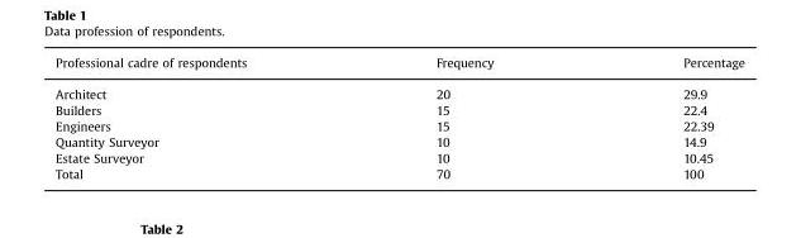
<table><thead><tr><td>Professional cadre of respondents</td><td>Frequency</td><td>Percentage</td></tr></thead><tbody><tr><td>Architect</td><td>20</td><td>29.9</td></tr><tr><td>Builders</td><td>15</td><td>22.4</td></tr><tr><td>Engineers</td><td>15</td><td>22.39</td></tr><tr><td>Quantity Surveyor</td><td>10</td><td>14.9</td></tr><tr><td>Estate Surveyor</td><td>10</td><td>10.45</td></tr><tr><td>Total</td><td>70</td><td>100</td></tr></tbody></table>